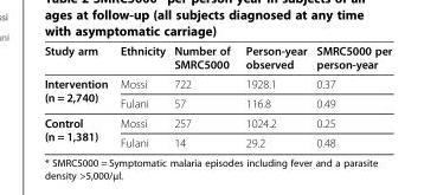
<table><thead><tr><td>Study arm</td><td>Ethnicity</td><td>Number of SMRC5000</td><td>Person-year observed</td><td>SMRC5000 per person-year</td></tr></thead><tbody><tr><td rowspan="2">Intervention (n = 2,740)</td><td>Mossi</td><td>722</td><td>1928.1</td><td>0.37</td></tr><tr><td>Fulani</td><td>57</td><td>116.8</td><td>0.49</td></tr><tr><td rowspan="2">Control (n = 1,381)</td><td>Mossi</td><td>257</td><td>1024.2</td><td>0.25</td></tr><tr><td>Fulani</td><td>14</td><td>29.2</td><td>0.48</td></tr></tbody></table>